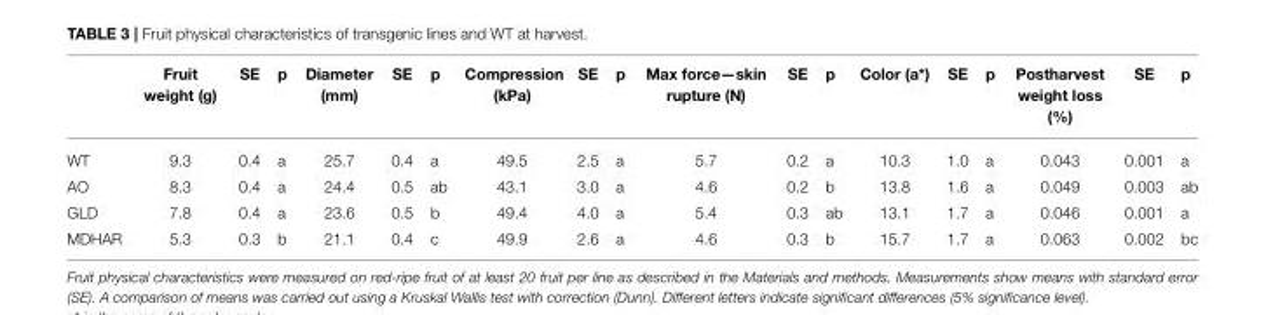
<table><thead><tr><td></td><td>Fruit weight (g)</td><td>SE</td><td>p</td><td>Diameter (mm)</td><td>SE</td><td>p</td><td>Compression (kPa)</td><td>SE</td><td>p</td><td>Max force—skin rupture (N)</td><td>SE</td><td>p</td><td>Color (a*)</td><td>SE</td><td>p</td><td>Postharvest weight loss (%)</td><td>SE</td><td>p</td></tr></thead><tbody><tr><td>WT</td><td>9.3</td><td>0.4</td><td>a</td><td>25.7</td><td>0.4</td><td>a</td><td>49.5</td><td>2.5</td><td>a</td><td>5.7</td><td>0.2</td><td>a</td><td>10.3</td><td>1.0</td><td>a</td><td>0.043</td><td>0.001</td><td>a</td></tr><tr><td>AO</td><td>8.3</td><td>0.4</td><td>a</td><td>24.4</td><td>0.5</td><td>ab</td><td>43.1</td><td>3.0</td><td>a</td><td>4.6</td><td>0.2</td><td>b</td><td>13.8</td><td>1.6</td><td>a</td><td>0.049</td><td>0.003</td><td>ab</td></tr><tr><td>GLD</td><td>7.8</td><td>0.4</td><td>a</td><td>23.6</td><td>0.5</td><td>b</td><td>49.4</td><td>4.0</td><td>a</td><td>5.4</td><td>0.3</td><td>ab</td><td>13.1</td><td>1.7</td><td>a</td><td>0.046</td><td>0.001</td><td>a</td></tr><tr><td>MDHAR</td><td>5.3</td><td>0.3</td><td>b</td><td>21.1</td><td>0.4</td><td>c</td><td>49.9</td><td>2.6</td><td>a</td><td>4.6</td><td>0.3</td><td>b</td><td>15.7</td><td>1.7</td><td>a</td><td>0.063</td><td>0.002</td><td>bc</td></tr></tbody></table>